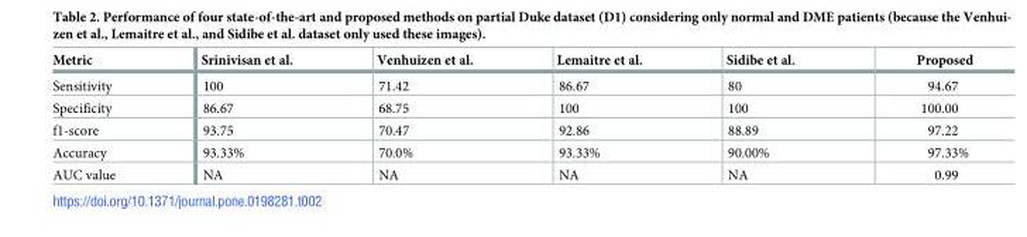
<table><thead><tr><td>Metric</td><td>Srinivisan et al.</td><td>Venhuizen et al.</td><td>Lemaitre et al.</td><td>Sidibe et al.</td><td>Proposed</td></tr></thead><tbody><tr><td>Sensitivity</td><td>100</td><td>71.42</td><td>86.67</td><td>80</td><td>94.67</td></tr><tr><td>Specificity</td><td>86.67</td><td>68.75</td><td>100</td><td>100</td><td>100.00</td></tr><tr><td>f1-score</td><td>93.75</td><td>70.47</td><td>92.86</td><td>88.89</td><td>97.22</td></tr><tr><td>Accuracy</td><td>93.33%</td><td>70.0%</td><td>93.33%</td><td>90.00%</td><td>97.33%</td></tr><tr><td>AUC value</td><td>NA</td><td>NA</td><td>NA</td><td>NA</td><td>0.99</td></tr></tbody></table>